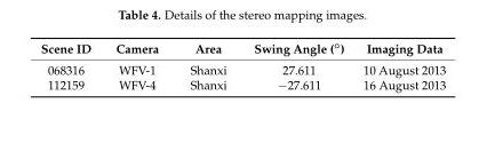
<table><thead><tr><td>Scene ID</td><td>Camera</td><td>Area</td><td>Swing Angle (◦)</td><td>Imaging Data</td></tr></thead><tbody><tr><td>068316</td><td>WFV-1</td><td>Shanxi</td><td>27.611</td><td>10 August 2013</td></tr><tr><td>112159</td><td>WFV-4</td><td>Shanxi</td><td>−27.611</td><td>16 August 2013</td></tr></tbody></table>